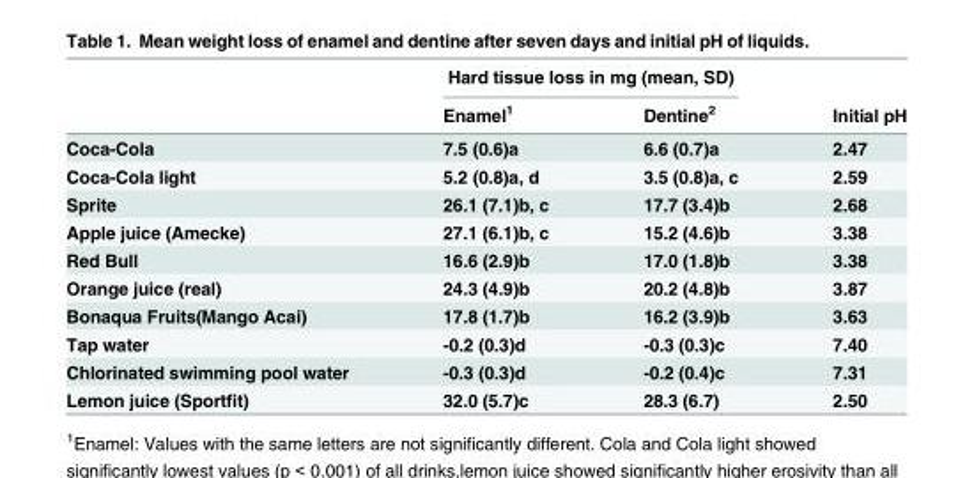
<table><thead><tr><td rowspan="2"></td><td colspan="2">Hard tissue loss in mg (mean, SD)</td><td rowspan="2">Initial pH</td></tr><tr><td>Enamel<sup>1</sup></td><td>Dentine<sup>2</sup></td></tr></thead><tbody><tr><td>Coca-Cola</td><td>7.5 (0.6)a</td><td>6.6 (0.7)a</td><td>2.47</td></tr><tr><td>Coca-Cola light</td><td>5.2 (0.8)a, d</td><td>3.5 (0.8)a, c</td><td>2.59</td></tr><tr><td>Sprite</td><td>26.1 (7.1)b, c</td><td>17.7 (3.4)b</td><td>2.68</td></tr><tr><td>Apple juice (Amecke)</td><td>27.1 (6.1)b, c</td><td>15.2 (4.6)b</td><td>3.38</td></tr><tr><td>Red Bull</td><td>16.6 (2.9)b</td><td>17.0 (1.8)b</td><td>3.38</td></tr><tr><td>Orange juice (real)</td><td>24.3 (4.9)b</td><td>20.2 (4.8)b</td><td>3.87</td></tr><tr><td>Bonaqua Fruits(Mango Acai)</td><td>17.8 (1.7)b</td><td>16.2 (3.9)b</td><td>3.63</td></tr><tr><td>Tap water</td><td>-0.2 (0.3)d</td><td>-0.3 (0.3)c</td><td>7.40</td></tr><tr><td>Chlorinated swimming pool water</td><td>-0.3 (0.3)d</td><td>-0.2 (0.4)c</td><td>7.31</td></tr><tr><td>Lemon juice (Sportfit)</td><td>32.0 (5.7)c</td><td>28.3 (6.7)</td><td>2.50</td></tr></tbody></table>